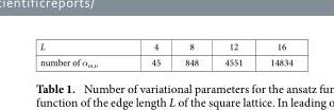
<table><tbody><tr><td>L</td><td>4</td><td>8</td><td>12</td><td>16</td></tr><tr><td>number of α<sub>m,n</sub></td><td>45</td><td>848</td><td>4551</td><td>14834</td></tr></tbody></table>